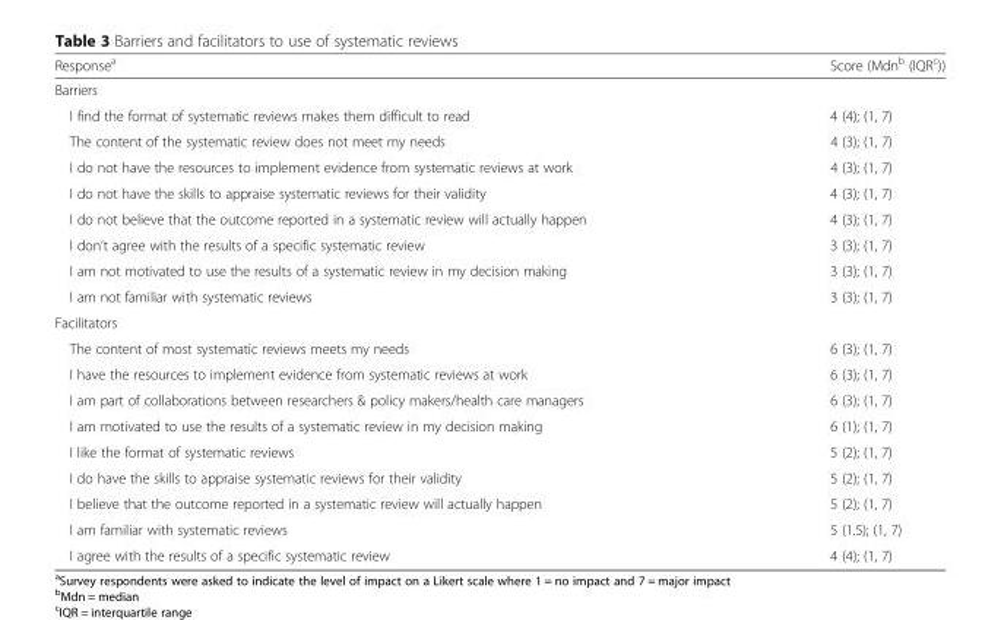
<table><thead><tr><td>Response<sup>a</sup></td><td>Score (Mdn<sup>b</sup> (IQR<sup>c</sup>))</td></tr></thead><tbody><tr><td colspan="2">Barriers</td></tr><tr><td>I find the format of systematic reviews makes them difficult to read</td><td>4 (4); (1, 7)</td></tr><tr><td>The content of the systematic review does not meet my needs</td><td>4 (3); (1, 7)</td></tr><tr><td>I do not have the resources to implement evidence from systematic reviews at work</td><td>4 (3); (1, 7)</td></tr><tr><td>I do not have the skills to appraise systematic reviews for their validity</td><td>4 (3); (1, 7)</td></tr><tr><td>I do not believe that the outcome reported in a systematic review will actually happen</td><td>4 (3); (1, 7)</td></tr><tr><td>I don’t agree with the results of a specific systematic review</td><td>3 (3); (1, 7)</td></tr><tr><td>I am not motivated to use the results of a systematic review in my decision making</td><td>3 (3); (1, 7)</td></tr><tr><td>I am not familiar with systematic reviews</td><td>3 (3); (1, 7)</td></tr><tr><td colspan="2">Facilitators</td></tr><tr><td>The content of most systematic reviews meets my needs</td><td>6 (3); (1, 7)</td></tr><tr><td>I have the resources to implement evidence from systematic reviews at work</td><td>6 (3); (1, 7)</td></tr><tr><td>I am part of collaborations between researchers &amp; policy makers/health care managers</td><td>6 (3); (1, 7)</td></tr><tr><td>I am motivated to use the results of a systematic review in my decision making</td><td>6 (1); (1, 7)</td></tr><tr><td>I like the format of systematic reviews</td><td>5 (2); (1, 7)</td></tr><tr><td>I do have the skills to appraise systematic reviews for their validity</td><td>5 (2); (1, 7)</td></tr><tr><td>I believe that the outcome reported in a systematic review will actually happen</td><td>5 (2); (1, 7)</td></tr><tr><td>I am familiar with systematic reviews</td><td>5 (1.5); (1, 7)</td></tr><tr><td>I agree with the results of a specific systematic review</td><td>4 (4); (1, 7)</td></tr></tbody></table>